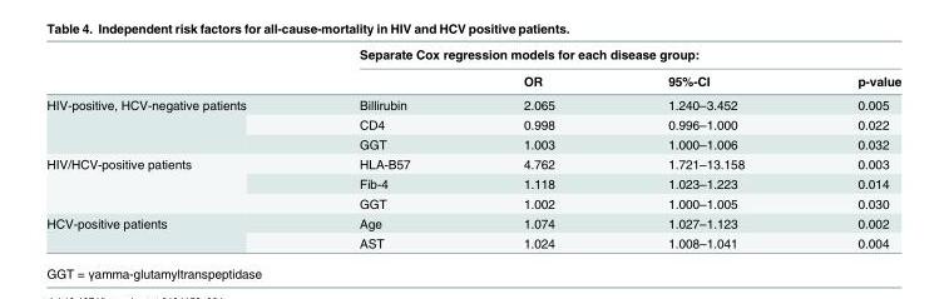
<table><thead><tr><td rowspan="2"></td><td colspan="4">Separate Cox regression models for each disease group:</td></tr><tr><td></td><td>OR</td><td>95%-CI</td><td>p-value</td></tr></thead><tbody><tr><td rowspan="3">HIV-positive, HCV-negative patients</td><td>Billirubin</td><td>2.065</td><td>1.240–3.452</td><td>0.005</td></tr><tr><td>CD4</td><td>0.998</td><td>0.996–1.000</td><td>0.022</td></tr><tr><td>GGT</td><td>1.003</td><td>1.000–1.006</td><td>0.032</td></tr><tr><td rowspan="3">HIV/HCV-positive patients</td><td>HLA-B57</td><td>4.762</td><td>1.721–13.158</td><td>0.003</td></tr><tr><td>Fib-4</td><td>1.118</td><td>1.023–1.223</td><td>0.014</td></tr><tr><td>GGT</td><td>1.002</td><td>1.000–1.005</td><td>0.030</td></tr><tr><td rowspan="2">HCV-positive patients</td><td>Age</td><td>1.074</td><td>1.027–1.123</td><td>0.002</td></tr><tr><td>AST</td><td>1.024</td><td>1.008–1.041</td><td>0.004</td></tr></tbody></table>